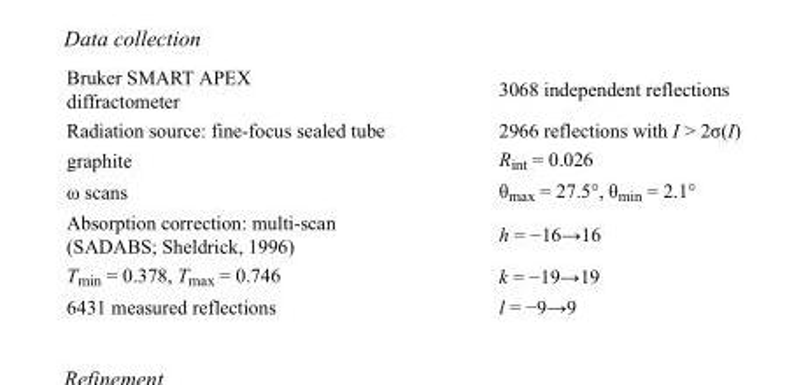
<table><tbody><tr><td>Bruker SMART APEX diffractometer</td><td>3068 independent reflections</td></tr><tr><td>Radiation source: fine-focus sealed tube</td><td>2966 reflections with I &gt; 2σ(I)</td></tr><tr><td>graphite</td><td>R<sub>int</sub> = 0.026</td></tr><tr><td>ω scans</td><td>θ<sub>max</sub> = 27.5°, θ<sub>min</sub> = 2.1°</td></tr><tr><td>Absorption correction: multi-scan (SADABS; Sheldrick, 1996)</td><td>h = −16→16</td></tr><tr><td>T<sub>min</sub> = 0.378, T<sub>max</sub> = 0.746</td><td>k = −19→19</td></tr><tr><td>6431 measured reflections</td><td>l = −9→9</td></tr></tbody></table>